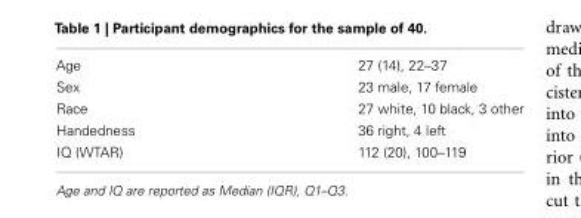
<table><tbody><tr><td>Age</td><td>27 (14), 22–37</td></tr><tr><td>Sex</td><td>23 male, 17 female</td></tr><tr><td>Race</td><td>27 white, 10 black, 3 other</td></tr><tr><td>Handedness</td><td>36 right, 4 left</td></tr><tr><td>IQ (WTAR)</td><td>112 (20), 100–119</td></tr></tbody></table>